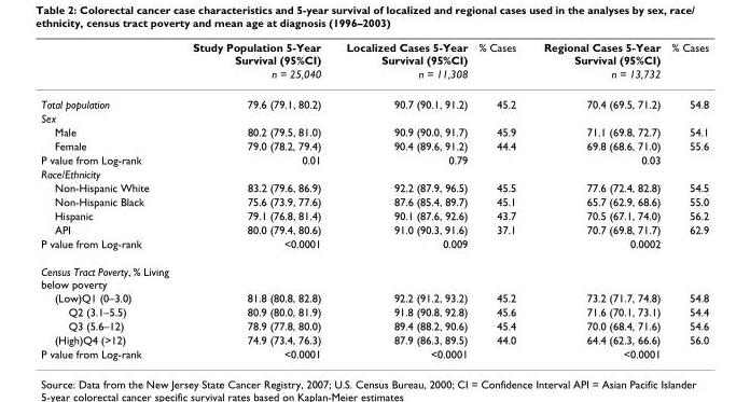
<table><thead><tr><td rowspan="2"></td><td rowspan="2">Study Population 5-Year Survival (95%CI) n = 25,040</td><td rowspan="2">Localized Cases 5-Year Survival (95%CI) n = 11,308</td><td rowspan="2">% Cases</td><td rowspan="2">Regional Cases 5-Year Survival (95%CI) n = 13,732</td><td rowspan="2">% Cases</td></tr><tr></tr></thead><tbody><tr><td>Total population</td><td>79.6 (79.1, 80.2)</td><td>90.7 (90.1, 91.2)</td><td>45.2</td><td>70.4 (69.5, 71.2)</td><td>54.8</td></tr><tr><td colspan="6">Sex</td></tr><tr><td>Male</td><td>80.2 (79.5, 81.0)</td><td>90.9 (90.0, 91.7)</td><td>45.9</td><td>71.1 (69.8, 72.7)</td><td>54.1</td></tr><tr><td>Female</td><td>79.0 (78.2, 79.4)</td><td>90.4 (89.6, 91.2)</td><td>44.4</td><td>69.8 (68.6, 71.0)</td><td>55.6</td></tr><tr><td>P value from Log-rank</td><td>0.01</td><td>0.79</td><td></td><td>0.03</td><td></td></tr><tr><td colspan="6">Race/Ethnicity</td></tr><tr><td>Non-Hispanic White</td><td>83.2 (79.6, 86.9)</td><td>92.2 (87.9, 96.5)</td><td>45.5</td><td>77.6 (72.4, 82.8)</td><td>54.5</td></tr><tr><td>Non-Hispanic Black</td><td>75.6 (73.9, 77.6)</td><td>87.6 (85.4, 89.7)</td><td>45.1</td><td>65.7 (62.9, 68.6)</td><td>55.0</td></tr><tr><td>Hispanic</td><td>79.1 (76.8, 81.4)</td><td>90.1 (87.6, 92.6)</td><td>43.7</td><td>70.5 (67.1, 74.0)</td><td>56.2</td></tr><tr><td>API</td><td>80.0 (79.4, 80.6)</td><td>91.0 (90.3, 91.6)</td><td>37.1</td><td>70.7 (69.8, 71.7)</td><td>62.9</td></tr><tr><td>P value from Log-rank</td><td>&lt;0.0001</td><td>0.009</td><td></td><td>0.0002</td><td></td></tr><tr><td colspan="6">Census Tract Poverty, % Living below poverty</td></tr><tr><td>(Low)Q1 (0–3.0)</td><td>81.8 (80.8, 82.8)</td><td>92.2 (91.2, 93.2)</td><td>45.2</td><td>73.2 (71.7, 74.8)</td><td>54.8</td></tr><tr><td>Q2 (3.1–5.5)</td><td>80.9 (80.0, 81.9)</td><td>91.8 (90.8, 92.8)</td><td>45.6</td><td>71.6 (70.1, 73.1)</td><td>54.4</td></tr><tr><td>Q3 (5.6–12)</td><td>78.9 (77.8, 80.0)</td><td>89.4 (88.2, 90.6)</td><td>45.4</td><td>70.0 (68.4, 71.6)</td><td>54.6</td></tr><tr><td>(High)Q4 (&gt;12)</td><td>74.9 (73.4, 76.3)</td><td>87.9 (86.3, 89.5)</td><td>44.0</td><td>64.4 (62.3, 66.6)</td><td>56.0</td></tr><tr><td>P value from Log-rank</td><td>&lt;0.0001</td><td>&lt;0.0001</td><td></td><td>&lt;0.0001</td><td></td></tr></tbody></table>